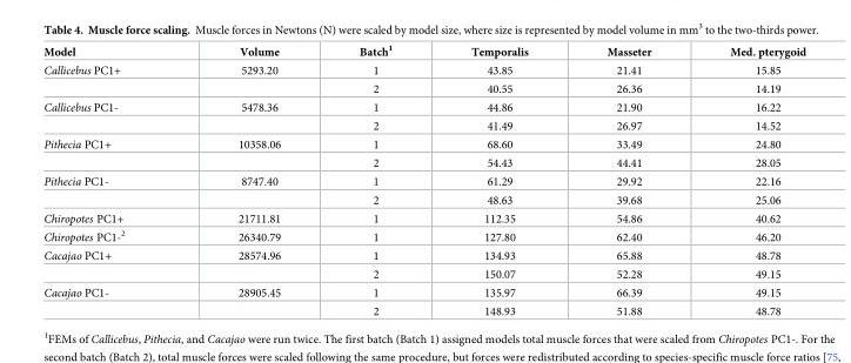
<table><thead><tr><td>Model</td><td>Volume</td><td>Batch<sup>1</sup></td><td>Temporalis</td><td>Masseter</td><td>Med. pterygoid</td></tr></thead><tbody><tr><td rowspan="2">Callicebus PC1+</td><td>5293.20</td><td>1</td><td>43.85</td><td>21.41</td><td>15.85</td></tr><tr><td></td><td>2</td><td>40.55</td><td>26.36</td><td>14.19</td></tr><tr><td rowspan="2">Callicebus PC1-</td><td>5478.36</td><td>1</td><td>44.86</td><td>21.90</td><td>16.22</td></tr><tr><td></td><td>2</td><td>41.49</td><td>26.97</td><td>14.52</td></tr><tr><td rowspan="2">Pithecia PC1+</td><td>10358.06</td><td>1</td><td>68.60</td><td>33.49</td><td>24.80</td></tr><tr><td></td><td>2</td><td>54.43</td><td>44.41</td><td>28.05</td></tr><tr><td rowspan="2">Pithecia PC1-</td><td>8747.40</td><td>1</td><td>61.29</td><td>29.92</td><td>22.16</td></tr><tr><td></td><td>2</td><td>48.63</td><td>39.68</td><td>25.06</td></tr><tr><td>Chiropotes PC1+</td><td>21711.81</td><td>1</td><td>112.35</td><td>54.86</td><td>40.62</td></tr><tr><td>Chiropotes PC1-<sup>2</sup></td><td>26340.79</td><td>1</td><td>127.80</td><td>62.40</td><td>46.20</td></tr><tr><td rowspan="2">Cacajao PC1+</td><td>28574.96</td><td>1</td><td>134.93</td><td>65.88</td><td>48.78</td></tr><tr><td></td><td>2</td><td>150.07</td><td>52.28</td><td>49.15</td></tr><tr><td rowspan="2">Cacajao PC1-</td><td>28905.45</td><td>1</td><td>135.97</td><td>66.39</td><td>49.15</td></tr><tr><td></td><td>2</td><td>148.93</td><td>51.88</td><td>48.78</td></tr></tbody></table>